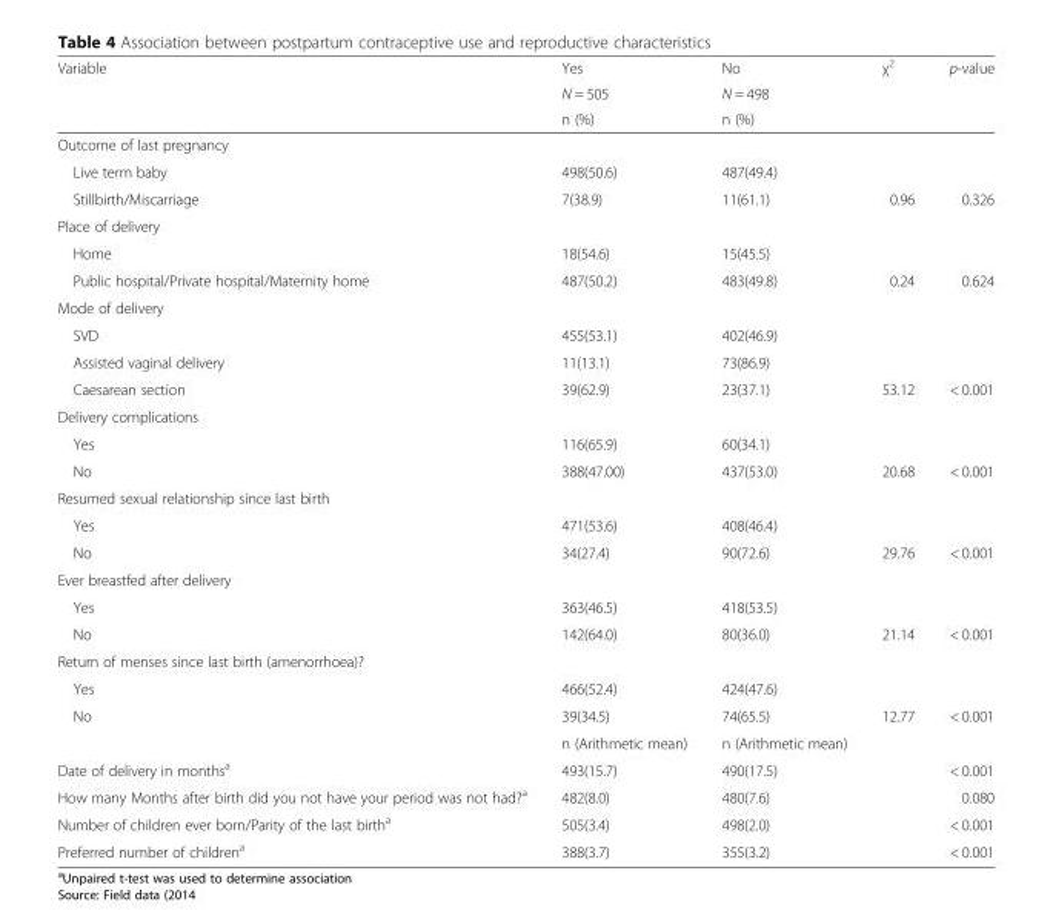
<table><thead><tr><td rowspan="3">Variable</td><td rowspan="3">Yes N = 505 n (%)</td><td rowspan="3">No N = 498 n (%)</td><td rowspan="3">χ<sup>2</sup></td><td rowspan="3">p-value</td></tr><tr></tr><tr></tr></thead><tbody><tr><td colspan="5">Outcome of last pregnancy</td></tr><tr><td>Live term baby</td><td>498(50.6)</td><td>487(49.4)</td><td></td><td></td></tr><tr><td>Stillbirth/Miscarriage</td><td>7(38.9)</td><td>11(61.1)</td><td>0.96</td><td>0.326</td></tr><tr><td colspan="5">Place of delivery</td></tr><tr><td>Home</td><td>18(54.6)</td><td>15(45.5)</td><td></td><td></td></tr><tr><td>Public hospital/Private hospital/Maternity home</td><td>487(50.2)</td><td>483(49.8)</td><td>0.24</td><td>0.624</td></tr><tr><td colspan="5">Mode of delivery</td></tr><tr><td>SVD</td><td>455(53.1)</td><td>402(46.9)</td><td></td><td></td></tr><tr><td>Assisted vaginal delivery</td><td>11(13.1)</td><td>73(86.9)</td><td></td><td></td></tr><tr><td>Caesarean section</td><td>39(62.9)</td><td>23(37.1)</td><td>53.12</td><td>&lt; 0.001</td></tr><tr><td colspan="5">Delivery complications</td></tr><tr><td>Yes</td><td>116(65.9)</td><td>60(34.1)</td><td></td><td></td></tr><tr><td>No</td><td>388(47.00)</td><td>437(53.0)</td><td>20.68</td><td>&lt; 0.001</td></tr><tr><td colspan="5">Resumed sexual relationship since last birth</td></tr><tr><td>Yes</td><td>471(53.6)</td><td>408(46.4)</td><td></td><td></td></tr><tr><td>No</td><td>34(27.4)</td><td>90(72.6)</td><td>29.76</td><td>&lt; 0.001</td></tr><tr><td colspan="5">Ever breastfed after delivery</td></tr><tr><td>Yes</td><td>363(46.5)</td><td>418(53.5)</td><td></td><td></td></tr><tr><td>No</td><td>142(64.0)</td><td>80(36.0)</td><td>21.14</td><td>&lt; 0.001</td></tr><tr><td colspan="5">Return of menses since last birth (amenorrhoea)?</td></tr><tr><td>Yes</td><td>466(52.4)</td><td>424(47.6)</td><td></td><td></td></tr><tr><td rowspan="2">No</td><td>39(34.5)</td><td>74(65.5)</td><td>12.77</td><td>&lt; 0.001</td></tr><tr><td>n (Arithmetic mean)</td><td>n (Arithmetic mean)</td><td></td><td></td></tr><tr><td>Date of delivery in months<sup>a</sup></td><td>493(15.7)</td><td>490(17.5)</td><td></td><td>&lt; 0.001</td></tr><tr><td>How many Months after birth did you not have your period was not had?<sup>a</sup></td><td>482(8.0)</td><td>480(7.6)</td><td></td><td>0.080</td></tr><tr><td>Number of children ever born/Parity of the last birth<sup>a</sup></td><td>505(3.4)</td><td>498(2.0)</td><td></td><td>&lt; 0.001</td></tr><tr><td>Preferred number of children<sup>a</sup></td><td>388(3.7)</td><td>355(3.2)</td><td></td><td>&lt; 0.001</td></tr></tbody></table>